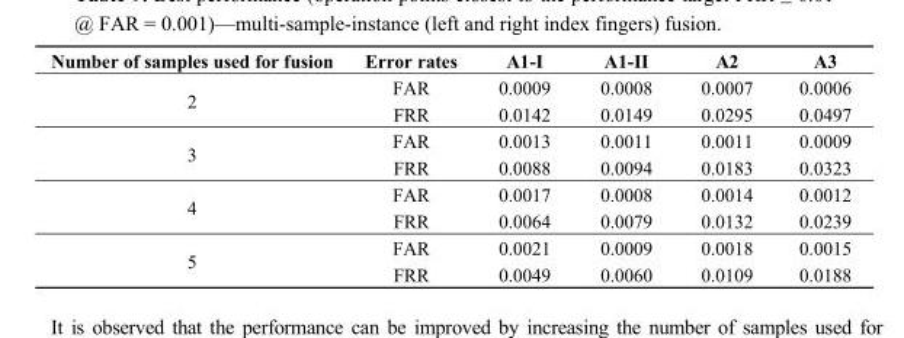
<table><thead><tr><td>Number of samples used for fusion</td><td>Error rates</td><td>A1-I</td><td>A1-II</td><td>A2</td><td>A3</td></tr></thead><tbody><tr><td rowspan="2">2</td><td>FAR</td><td>0.0009</td><td>0.0008</td><td>0.0007</td><td>0.0006</td></tr><tr><td>FRR</td><td>0.0142</td><td>0.0149</td><td>0.0295</td><td>0.0497</td></tr><tr><td rowspan="2">3</td><td>FAR</td><td>0.0013</td><td>0.0011</td><td>0.0011</td><td>0.0009</td></tr><tr><td>FRR</td><td>0.0088</td><td>0.0094</td><td>0.0183</td><td>0.0323</td></tr><tr><td rowspan="2">4</td><td>FAR</td><td>0.0017</td><td>0.0008</td><td>0.0014</td><td>0.0012</td></tr><tr><td>FRR</td><td>0.0064</td><td>0.0079</td><td>0.0132</td><td>0.0239</td></tr><tr><td rowspan="2">5</td><td>FAR</td><td>0.0021</td><td>0.0009</td><td>0.0018</td><td>0.0015</td></tr><tr><td>FRR</td><td>0.0049</td><td>0.0060</td><td>0.0109</td><td>0.0188</td></tr></tbody></table>